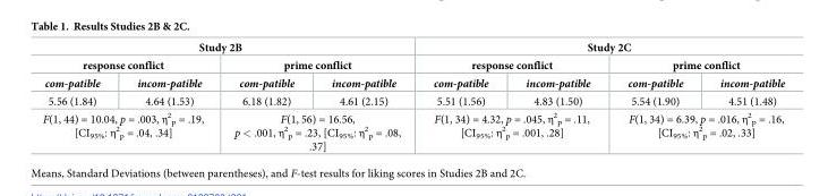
<table><thead><tr><td colspan="4">Study 2B</td><td colspan="4">Study 2C</td></tr><tr><td colspan="2">response conflict</td><td colspan="2">prime conflict</td><td colspan="2">response conflict</td><td colspan="2">prime conflict</td></tr><tr><td>com-patible</td><td>incom-patible</td><td>com-patible</td><td>incom-patible</td><td>com-patible</td><td>incom-patible</td><td>com-patible</td><td>incom-patible</td></tr></thead><tbody><tr><td>5.56 (1.84)</td><td>4.64 (1.53)</td><td>6.18 (1.82)</td><td>4.61 (2.15)</td><td>5.51 (1.56)</td><td>4.83 (1.50)</td><td>5.54 (1.90)</td><td>4.51 (1.48)</td></tr><tr><td colspan="2">F(1, 44) = 10.04, p = .003, η<sup>2</sup> <sub>p</sub> = .19, [CI<sub>95%</sub>: η<sup>2</sup> <sub>p</sub> = .04, .34]</td><td colspan="2">F(1, 56) = 16.56, p &lt; .001, η<sup>2</sup> <sub>p</sub> = .23, [CI<sub>95%</sub>: η<sup>2</sup> <sub>p</sub> = .08, .37]</td><td colspan="2">F(1, 34) = 4.32, p = .045, η<sup>2</sup> <sub>p</sub> = .11, [CI<sub>95%</sub>: η<sup>2</sup> <sub>p</sub> = .001, .28]</td><td colspan="2">F(1, 34) = 6.39, p = .016, η<sup>2</sup> <sub>p</sub> = .16, [CI<sub>95%</sub>: η<sup>2</sup> <sub>p</sub> = .02, .33]</td></tr></tbody></table>